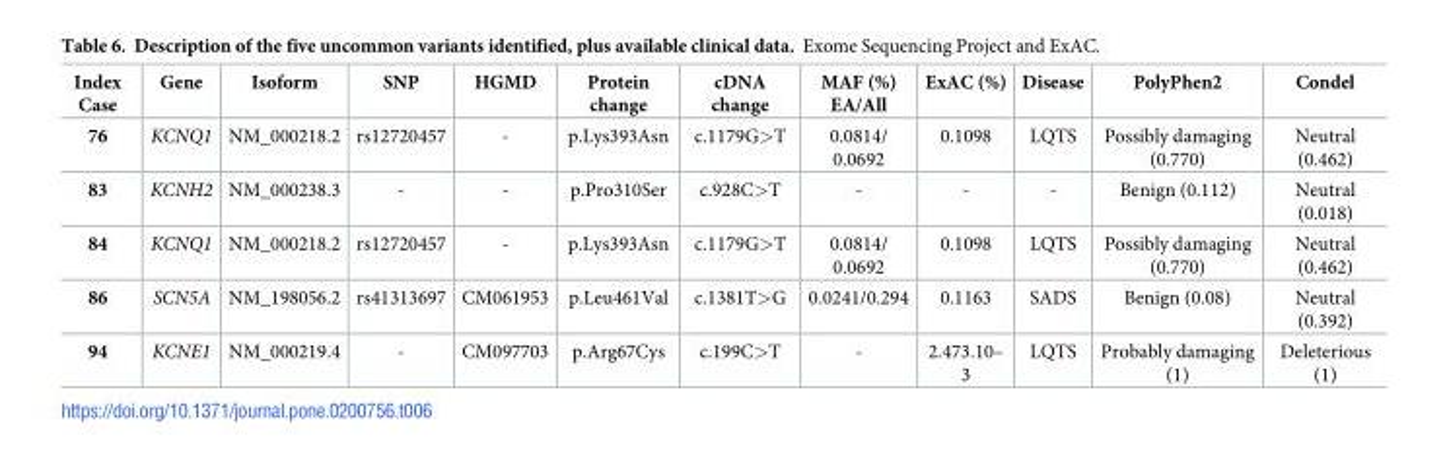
<table><thead><tr><td>Index Case</td><td>Gene</td><td>Isoform</td><td>SNP</td><td>HGMD</td><td>Protein change</td><td>cDNA change</td><td>MAF (%) EA/All</td><td>ExAC (%)</td><td>Disease</td><td>PolyPhen2</td><td>Condel</td></tr></thead><tbody><tr><td>76</td><td>KCNQ1</td><td>NM_000218.2</td><td>rs12720457</td><td>-</td><td>p.Lys393Asn</td><td>c.1179G&gt;T</td><td>0.0814/ 0.0692</td><td>0.1098</td><td>LQTS</td><td>Possibly damaging (0.770)</td><td>Neutral (0.462)</td></tr><tr><td>83</td><td>KCNH2</td><td>NM_000238.3</td><td>-</td><td>-</td><td>p.Pro310Ser</td><td>c.928C&gt;T</td><td>-</td><td>-</td><td>-</td><td>Benign (0.112)</td><td>Neutral (0.018)</td></tr><tr><td>84</td><td>KCNQ1</td><td>NM_000218.2</td><td>rs12720457</td><td>-</td><td>p.Lys393Asn</td><td>c.1179G&gt;T</td><td>0.0814/ 0.0692</td><td>0.1098</td><td>LQTS</td><td>Possibly damaging (0.770)</td><td>Neutral (0.462)</td></tr><tr><td>86</td><td>SCN5A</td><td>NM_198056.2</td><td>rs41313697</td><td>CM061953</td><td>p.Leu461Val</td><td>c.1381T&gt;G</td><td>0.0241/0.294</td><td>0.1163</td><td>SADS</td><td>Benign (0.08)</td><td>Neutral (0.392)</td></tr><tr><td>94</td><td>KCNE1</td><td>NM_000219.4</td><td>-</td><td>CM097703</td><td>p.Arg67Cys</td><td>c.199C&gt;T</td><td>-</td><td>2.473.10– 3</td><td>LQTS</td><td>Probably damaging (1)</td><td>Deleterious (1)</td></tr></tbody></table>